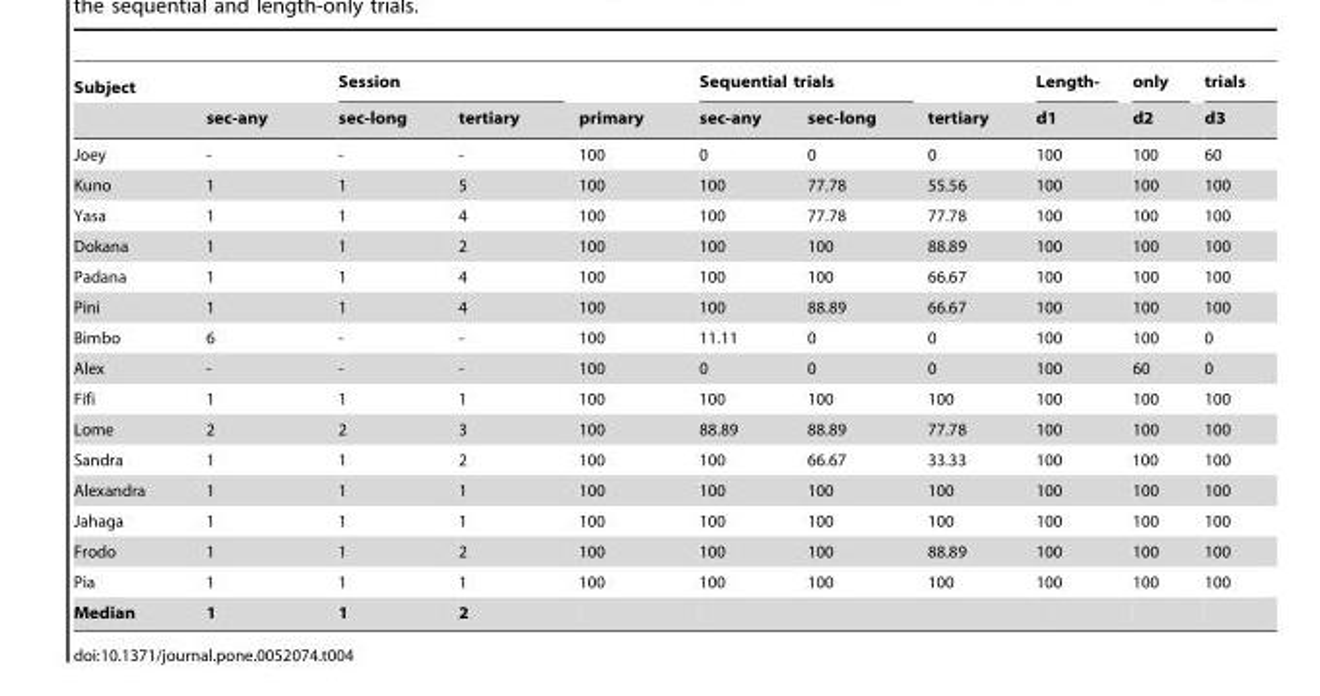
<table><thead><tr><td rowspan="2">Subject</td><td rowspan="2">sec-any</td><td colspan="2">Session</td><td rowspan="2">primary</td><td colspan="2">Sequential trials</td><td rowspan="2">tertiary</td><td rowspan="2">Length- d1</td><td rowspan="2">only d2</td><td rowspan="2">trials d3</td></tr><tr><td>sec-long</td><td>tertiary</td><td>sec-any</td><td>sec-long</td></tr></thead><tbody><tr><td>Joey</td><td>-</td><td>-</td><td>-</td><td>100</td><td>0</td><td>0</td><td>0</td><td>100</td><td>100</td><td>60</td></tr><tr><td>Kuno</td><td>1</td><td>1</td><td>5</td><td>100</td><td>100</td><td>77.78</td><td>55.56</td><td>100</td><td>100</td><td>100</td></tr><tr><td>Yasa</td><td>1</td><td>1</td><td>4</td><td>100</td><td>100</td><td>77.78</td><td>77.78</td><td>100</td><td>100</td><td>100</td></tr><tr><td>Dokana</td><td>1</td><td>1</td><td>2</td><td>100</td><td>100</td><td>100</td><td>88.89</td><td>100</td><td>100</td><td>100</td></tr><tr><td>Padana</td><td>1</td><td>1</td><td>4</td><td>100</td><td>100</td><td>100</td><td>66.67</td><td>100</td><td>100</td><td>100</td></tr><tr><td>Pini</td><td>1</td><td>1</td><td>4</td><td>100</td><td>100</td><td>88.89</td><td>66.67</td><td>100</td><td>100</td><td>100</td></tr><tr><td>Bimbo</td><td>6</td><td>-</td><td>-</td><td>100</td><td>11.11</td><td>0</td><td>0</td><td>100</td><td>100</td><td>0</td></tr><tr><td>Alex</td><td>-</td><td>-</td><td>-</td><td>100</td><td>0</td><td>0</td><td>0</td><td>100</td><td>60</td><td>0</td></tr><tr><td>Fifi</td><td>1</td><td>1</td><td>1</td><td>100</td><td>100</td><td>100</td><td>100</td><td>100</td><td>100</td><td>100</td></tr><tr><td>Lome</td><td>2</td><td>2</td><td>3</td><td>100</td><td>88.89</td><td>88.89</td><td>77.78</td><td>100</td><td>100</td><td>100</td></tr><tr><td>Sandra</td><td>1</td><td>1</td><td>2</td><td>100</td><td>100</td><td>66.67</td><td>33.33</td><td>100</td><td>100</td><td>100</td></tr><tr><td>Alexandra</td><td>1</td><td>1</td><td>1</td><td>100</td><td>100</td><td>100</td><td>100</td><td>100</td><td>100</td><td>100</td></tr><tr><td>Jahaga</td><td>1</td><td>1</td><td>1</td><td>100</td><td>100</td><td>100</td><td>100</td><td>100</td><td>100</td><td>100</td></tr><tr><td>Frodo</td><td>1</td><td>1</td><td>2</td><td>100</td><td>100</td><td>100</td><td>88.89</td><td>100</td><td>100</td><td>100</td></tr><tr><td>Pia</td><td>1</td><td>1</td><td>1</td><td>100</td><td>100</td><td>100</td><td>100</td><td>100</td><td>100</td><td>100</td></tr><tr><td>Median</td><td>1</td><td>1</td><td>2</td><td></td><td></td><td></td><td></td><td></td><td></td><td></td></tr></tbody></table>